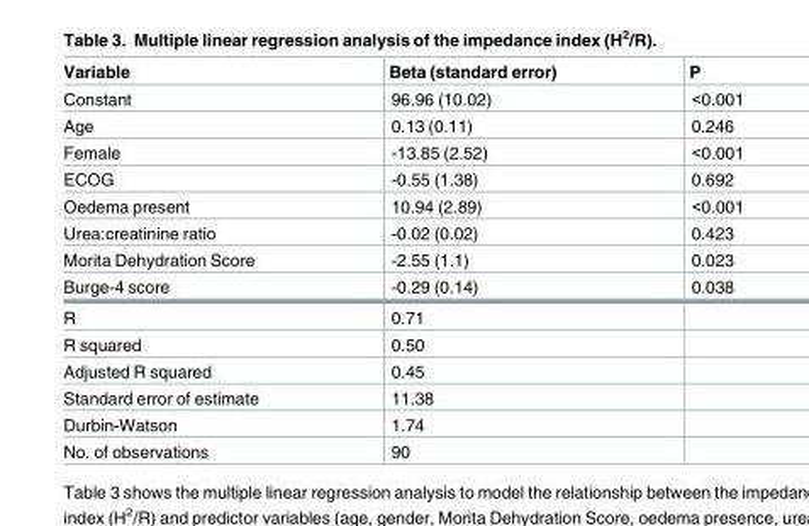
<table><thead><tr><td>Variable</td><td>Beta (standard error)</td><td>P</td></tr></thead><tbody><tr><td>Constant</td><td>96.96 (10.02)</td><td>&lt;0.001</td></tr><tr><td>Age</td><td>0.13 (0.11)</td><td>0.246</td></tr><tr><td>Female</td><td>-13.85 (2.52)</td><td>&lt;0.001</td></tr><tr><td>ECOG</td><td>-0.55 (1.38)</td><td>0.692</td></tr><tr><td>Oedema present</td><td>10.94 (2.89)</td><td>&lt;0.001</td></tr><tr><td>Urea:creatinine ratio</td><td>-0.02 (0.02)</td><td>0.423</td></tr><tr><td>Morita Dehydration Score</td><td>-2.55 (1.1)</td><td>0.023</td></tr><tr><td>Burge-4 score</td><td>-0.29 (0.14)</td><td>0.038</td></tr><tr><td>R</td><td>0.71</td><td></td></tr><tr><td>R squared</td><td>0.50</td><td></td></tr><tr><td>Adjusted R squared</td><td>0.45</td><td></td></tr><tr><td>Standard error of estimate</td><td>11.38</td><td></td></tr><tr><td>Durbin-Watson</td><td>1.74</td><td></td></tr><tr><td>No. of observations</td><td>90</td><td></td></tr></tbody></table>